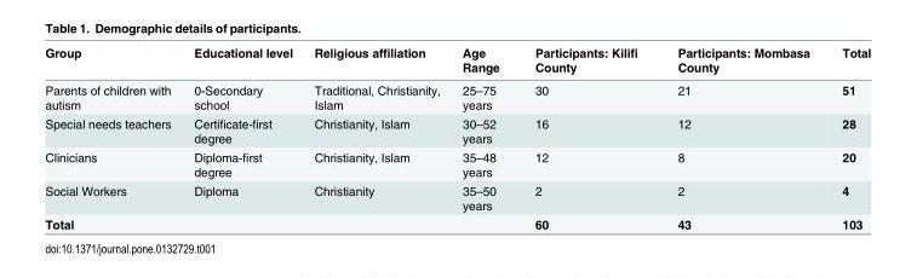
<table><thead><tr><td>Group</td><td>Educational level</td><td>Religious affiliation</td><td>Age Range</td><td>Participants: Kilifi County</td><td>Participants: Mombasa County</td><td>Total</td></tr></thead><tbody><tr><td>Parents of children with autism</td><td>0-Secondary school</td><td>Traditional, Christianity, Islam</td><td>25–75 years</td><td>30</td><td>21</td><td>51</td></tr><tr><td>Special needs teachers</td><td>Certificate-first degree</td><td>Christianity, Islam</td><td>30–52 years</td><td>16</td><td>12</td><td>28</td></tr><tr><td>Clinicians</td><td>Diploma-first degree</td><td>Christianity, Islam</td><td>35–48 years</td><td>12</td><td>8</td><td>20</td></tr><tr><td>Social Workers</td><td>Diploma</td><td>Christianity</td><td>35–50 years</td><td>2</td><td>2</td><td>4</td></tr><tr><td>Total</td><td></td><td></td><td></td><td>60</td><td>43</td><td>103</td></tr></tbody></table>